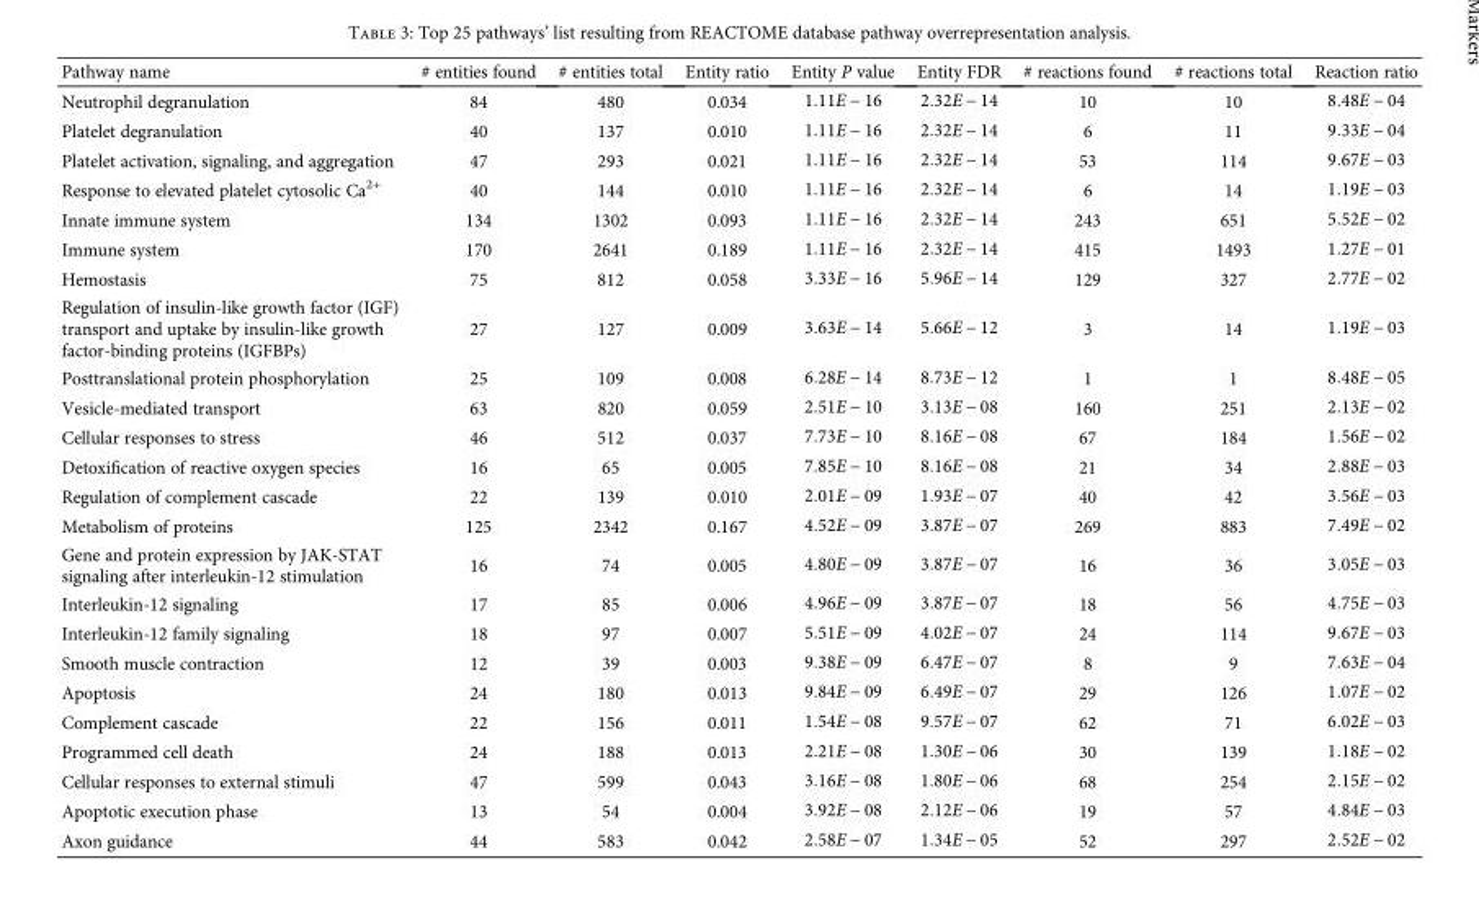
<table><thead><tr><td>Pathway name</td><td># entities found</td><td># entities total</td><td>Entity ratio</td><td>Entity P value</td><td>Entity FDR</td><td># reactions found</td><td># reactions total</td><td>Reaction ratio</td></tr></thead><tbody><tr><td>Neutrophil degranulation</td><td>84</td><td>480</td><td>0.034</td><td>1 11E − 16</td><td>2 32E − 14</td><td>10</td><td>10</td><td>8 48E − 04</td></tr><tr><td>Platelet degranulation</td><td>40</td><td>137</td><td>0.010</td><td>1 11E − 16</td><td>2 32E − 14</td><td>6</td><td>11</td><td>9 33E − 04</td></tr><tr><td>Platelet activation, signaling, and aggregation</td><td>47</td><td>293</td><td>0.021</td><td>1 11E − 16</td><td>2 32E − 14</td><td>53</td><td>114</td><td>9 67E − 03</td></tr><tr><td>Response to elevated platelet cytosolic Ca<sup>2+</sup></td><td>40</td><td>144</td><td>0.010</td><td>1 11E − 16</td><td>2 32E − 14</td><td>6</td><td>14</td><td>1 19E − 03</td></tr><tr><td>Innate immune system</td><td>134</td><td>1302</td><td>0.093</td><td>1 11E − 16</td><td>2 32E − 14</td><td>243</td><td>651</td><td>5 52E − 02</td></tr><tr><td>Immune system</td><td>170</td><td>2641</td><td>0.189</td><td>1 11E − 16</td><td>2 32E − 14</td><td>415</td><td>1493</td><td>1 27E − 01</td></tr><tr><td>Hemostasis</td><td>75</td><td>812</td><td>0.058</td><td>3 33E − 16</td><td>5 96E − 14</td><td>129</td><td>327</td><td>2 77E − 02</td></tr><tr><td>Regulation of insulin-like growth factor (IGF) transport and uptake by insulin-like growth factor-binding proteins (IGFBPs)</td><td>27</td><td>127</td><td>0.009</td><td>3 63E − 14</td><td>5 66E − 12</td><td>3</td><td>14</td><td>1 19E − 03</td></tr><tr><td>Posttranslational protein phosphorylation</td><td>25</td><td>109</td><td>0.008</td><td>6 28E − 14</td><td>8 73E − 12</td><td>1</td><td>1</td><td>8 48E − 05</td></tr><tr><td>Vesicle-mediated transport</td><td>63</td><td>820</td><td>0.059</td><td>2 51E − 10</td><td>3 13E − 08</td><td>160</td><td>251</td><td>2 13E − 02</td></tr><tr><td>Cellular responses to stress</td><td>46</td><td>512</td><td>0.037</td><td>7 73E − 10</td><td>8 16E − 08</td><td>67</td><td>184</td><td>1 56E − 02</td></tr><tr><td>Detoxification of reactive oxygen species</td><td>16</td><td>65</td><td>0.005</td><td>7 85E − 10</td><td>8 16E − 08</td><td>21</td><td>34</td><td>2 88E − 03</td></tr><tr><td>Regulation of complement cascade</td><td>22</td><td>139</td><td>0.010</td><td>2 01E − 09</td><td>1 93E − 07</td><td>40</td><td>42</td><td>3 56E − 03</td></tr><tr><td>Metabolism of proteins</td><td>125</td><td>2342</td><td>0.167</td><td>4 52E − 09</td><td>3 87E − 07</td><td>269</td><td>883</td><td>7 49E − 02</td></tr><tr><td>Gene and protein expression by JAK-STAT signaling after interleukin-12 stimulation</td><td>16</td><td>74</td><td>0.005</td><td>4 80E − 09</td><td>3 87E − 07</td><td>16</td><td>36</td><td>3 05E − 03</td></tr><tr><td>Interleukin-12 signaling</td><td>17</td><td>85</td><td>0.006</td><td>4 96E − 09</td><td>3 87E − 07</td><td>18</td><td>56</td><td>4 75E − 03</td></tr><tr><td>Interleukin-12 family signaling</td><td>18</td><td>97</td><td>0.007</td><td>5 51E − 09</td><td>4 02E − 07</td><td>24</td><td>114</td><td>9 67E − 03</td></tr><tr><td>Smooth muscle contraction</td><td>12</td><td>39</td><td>0.003</td><td>9 38E − 09</td><td>6 47E − 07</td><td>8</td><td>9</td><td>7 63E − 04</td></tr><tr><td>Apoptosis</td><td>24</td><td>180</td><td>0.013</td><td>9 84E − 09</td><td>6 49E − 07</td><td>29</td><td>126</td><td>1 07E − 02</td></tr><tr><td>Complement cascade</td><td>22</td><td>156</td><td>0.011</td><td>1 54E − 08</td><td>9 57E − 07</td><td>62</td><td>71</td><td>6 02E − 03</td></tr><tr><td>Programmed cell death</td><td>24</td><td>188</td><td>0.013</td><td>2 21E − 08</td><td>1 30E − 06</td><td>30</td><td>139</td><td>1 18E − 02</td></tr><tr><td>Cellular responses to external stimuli</td><td>47</td><td>599</td><td>0.043</td><td>3 16E − 08</td><td>1 80E − 06</td><td>68</td><td>254</td><td>2 15E − 02</td></tr><tr><td>Apoptotic execution phase</td><td>13</td><td>54</td><td>0.004</td><td>3 92E − 08</td><td>2 12E − 06</td><td>19</td><td>57</td><td>4 84E − 03</td></tr><tr><td>Axon guidance</td><td>44</td><td>583</td><td>0.042</td><td>2 58E − 07</td><td>1 34E − 05</td><td>52</td><td>297</td><td>2 52E − 02</td></tr></tbody></table>